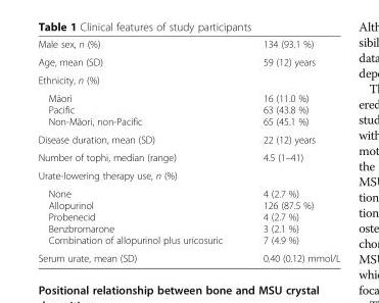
<table><tbody><tr><td>Male sex, n (%)</td><td>134 (93.1 %)</td></tr><tr><td>Age, mean (SD)</td><td>59 (12) years</td></tr><tr><td colspan="2">Ethnicity, n (%)</td></tr><tr><td>Māori Pacific Non-Māori, non-Pacific</td><td>16 (11.0 %) 63 (43.8 %) 65 (45.1 %)</td></tr><tr><td>Disease duration, mean (SD)</td><td>22 (12) years</td></tr><tr><td>Number of tophi, median (range)</td><td>4.5 (1–41)</td></tr><tr><td colspan="2">Urate-lowering therapy use, n (%)</td></tr><tr><td>None Allopurinol Probenecid Benzbromarone Combination of allopurinol plus uricosuric</td><td>4 (2.7 %) 126 (87.5 %) 4 (2.7 %) 3 (2.1 %) 7 (4.9 %)</td></tr><tr><td>Serum urate, mean (SD)</td><td>0.40 (0.12) mmol/L</td></tr></tbody></table>